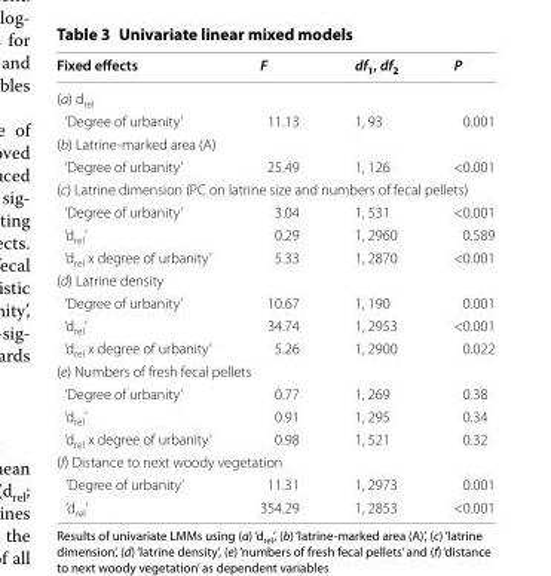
<table><thead><tr><td>Fixed effects</td><td>F</td><td>df<sub>1</sub>, df<sub>2</sub></td><td>P</td></tr></thead><tbody><tr><td colspan="4">(a) d<sub>rel</sub></td></tr><tr><td>‘Degree of urbanity’</td><td>11.13</td><td>1, 93</td><td>0.001</td></tr><tr><td colspan="4">(b) Latrine‑marked area (A)</td></tr><tr><td>‘Degree of urbanity’</td><td>25.49</td><td>1, 126</td><td>&lt;0.001</td></tr><tr><td colspan="4">(c) Latrine dimension (PC on latrine size and numbers of fecal pellets)</td></tr><tr><td>‘Degree of urbanity’</td><td>3.04</td><td>1, 531</td><td>&lt;0.001</td></tr><tr><td>‘d<sub>rel</sub>’</td><td>0.29</td><td>1, 2960</td><td>0.589</td></tr><tr><td>‘d<sub>rel</sub> x degree of urbanity’</td><td>5.33</td><td>1, 2870</td><td>&lt;0.001</td></tr><tr><td colspan="4">(d) Latrine density</td></tr><tr><td>‘Degree of urbanity’</td><td>10.67</td><td>1, 190</td><td>0.001</td></tr><tr><td>‘d<sub>rel</sub>’</td><td>34.74</td><td>1, 2953</td><td>&lt;0.001</td></tr><tr><td>‘d<sub>rel</sub> x degree of urbanity’</td><td>5.26</td><td>1, 2900</td><td>0.022</td></tr><tr><td colspan="4">(e) Numbers of fresh fecal pellets</td></tr><tr><td>‘Degree of urbanity’</td><td>0.77</td><td>1, 269</td><td>0.38</td></tr><tr><td>‘d<sub>rel</sub>’</td><td>0.91</td><td>1, 295</td><td>0.34</td></tr><tr><td>‘d<sub>rel</sub> x degree of urbanity’</td><td>0.98</td><td>1, 521</td><td>0.32</td></tr><tr><td colspan="4">(f) Distance to next woody vegetation</td></tr><tr><td>’Degree of urbanity’</td><td>11.31</td><td>1, 2973</td><td>0.001</td></tr><tr><td>’d<sub>rel</sub>’</td><td>354.29</td><td>1, 2853</td><td>&lt;0.001</td></tr></tbody></table>